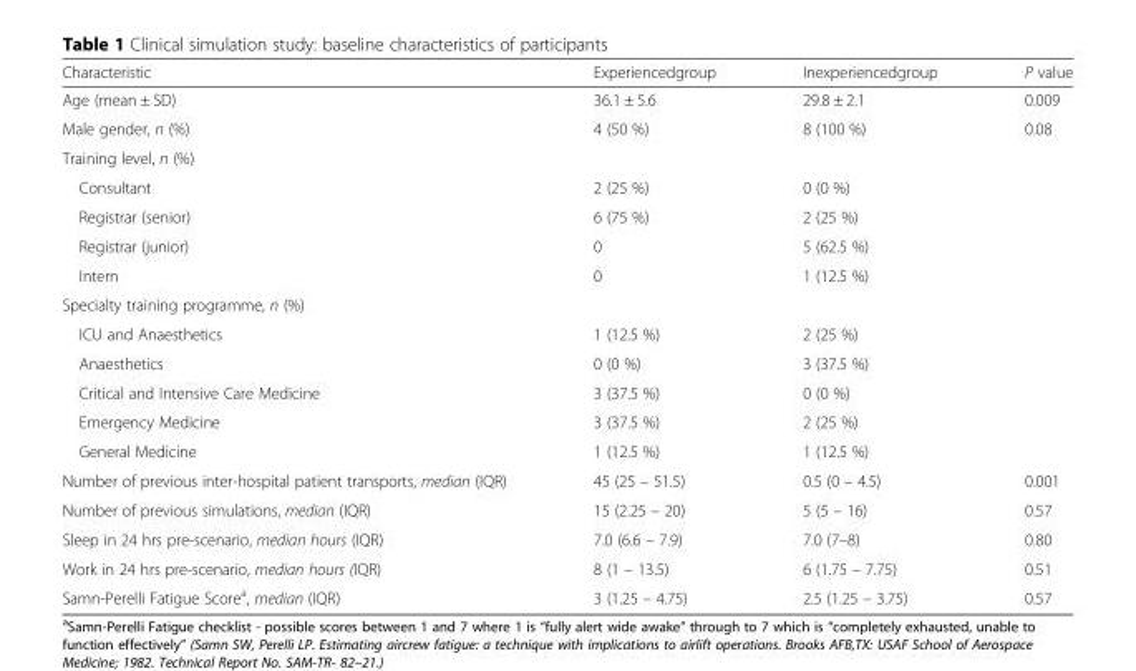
<table><thead><tr><td>Characteristic</td><td>Experiencedgroup</td><td>Inexperiencedgroup</td><td>P value</td></tr></thead><tbody><tr><td>Age (mean ± SD)</td><td>36.1 ± 5.6</td><td>29.8 ± 2.1</td><td>0.009</td></tr><tr><td>Male gender, n (%)</td><td>4 (50 %)</td><td>8 (100 %)</td><td>0.08</td></tr><tr><td colspan="3">Training level, n (%)</td><td rowspan="3"></td></tr><tr><td>Consultant</td><td>2 (25 %)</td><td>0 (0 %)</td></tr><tr><td>Registrar (senior)</td><td>6 (75 %)</td><td>2 (25 %)</td></tr><tr><td>Registrar (junior)</td><td>0</td><td>5 (62.5 %)</td><td rowspan="8"></td></tr><tr><td>Intern</td><td>0</td><td>1 (12.5 %)</td></tr><tr><td colspan="3">Specialty training programme, n (%)</td></tr><tr><td>ICU and Anaesthetics</td><td>1 (12.5 %)</td><td>2 (25 %)</td></tr><tr><td>Anaesthetics</td><td>0 (0 %)</td><td>3 (37.5 %)</td></tr><tr><td>Critical and Intensive Care Medicine</td><td>3 (37.5 %)</td><td>0 (0 %)</td></tr><tr><td>Emergency Medicine</td><td>3 (37.5 %)</td><td>2 (25 %)</td></tr><tr><td>General Medicine</td><td>1 (12.5 %)</td><td>1 (12.5 %)</td></tr><tr><td>Number of previous inter-hospital patient transports, median (IQR)</td><td>45 (25 – 51.5)</td><td>0.5 (0 – 4.5)</td><td>0.001</td></tr><tr><td>Number of previous simulations, median (IQR)</td><td>15 (2.25 – 20)</td><td>5 (5 – 16)</td><td>0.57</td></tr><tr><td>Sleep in 24 hrs pre-scenario, median hours (IQR)</td><td>7.0 (6.6 – 7.9)</td><td>7.0 (7–8)</td><td>0.80</td></tr><tr><td>Work in 24 hrs pre-scenario, median hours (IQR)</td><td>8 (1 – 13.5)</td><td>6 (1.75 – 7.75)</td><td>0.51</td></tr><tr><td>Samn-Perelli Fatigue Score<sup>a</sup>, median (IQR)</td><td>3 (1.25 – 4.75)</td><td>2.5 (1.25 – 3.75)</td><td>0.57</td></tr></tbody></table>